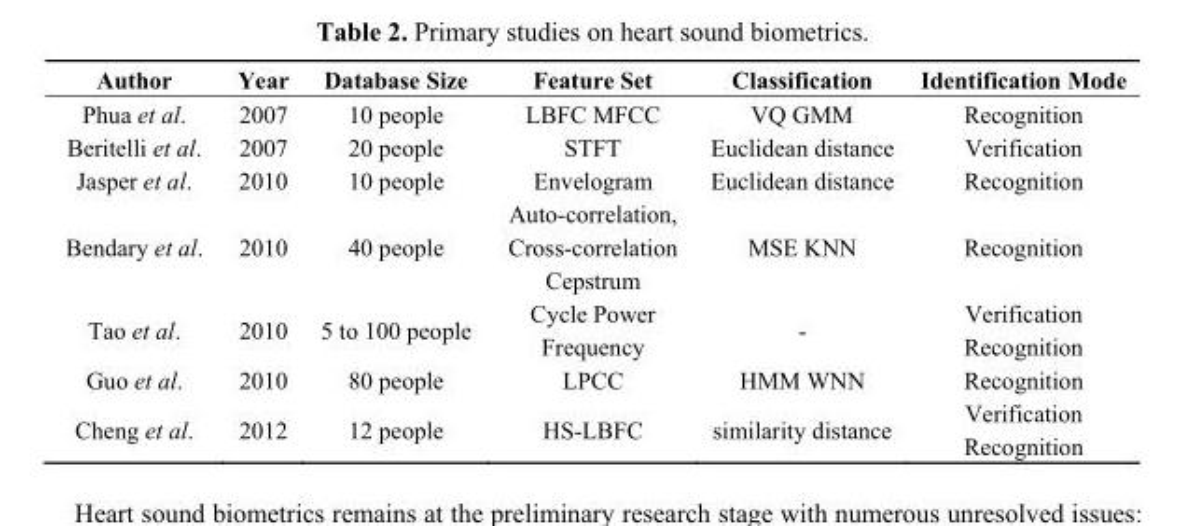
<table><thead><tr><td>Author</td><td>Year</td><td>Database Size</td><td>Feature Set</td><td>Classification</td><td>Identification Mode</td></tr></thead><tbody><tr><td>Phua et al.</td><td>2007</td><td>10 people</td><td>LBFC MFCC</td><td>VQ GMM</td><td>Recognition</td></tr><tr><td>Beritelli et al.</td><td>2007</td><td>20 people</td><td>STFT</td><td>Euclidean distance</td><td>Verification</td></tr><tr><td>Jasper et al.</td><td>2010</td><td>10 people</td><td>Envelogram</td><td>Euclidean distance</td><td>Recognition</td></tr><tr><td>Bendary et al.</td><td>2010</td><td>40 people</td><td>Auto-correlation, Cross-correlation Cepstrum</td><td>MSE KNN</td><td>Recognition</td></tr><tr><td>Tao et al.</td><td>2010</td><td>5 to 100 people</td><td>Cycle Power Frequency</td><td>-</td><td>Verification Recognition</td></tr><tr><td>Guo et al.</td><td>2010</td><td>80 people</td><td>LPCC</td><td>HMM WNN</td><td>Recognition</td></tr><tr><td>Cheng et al.</td><td>2012</td><td>12 people</td><td>HS-LBFC</td><td>similarity distance</td><td>Verification Recognition</td></tr></tbody></table>